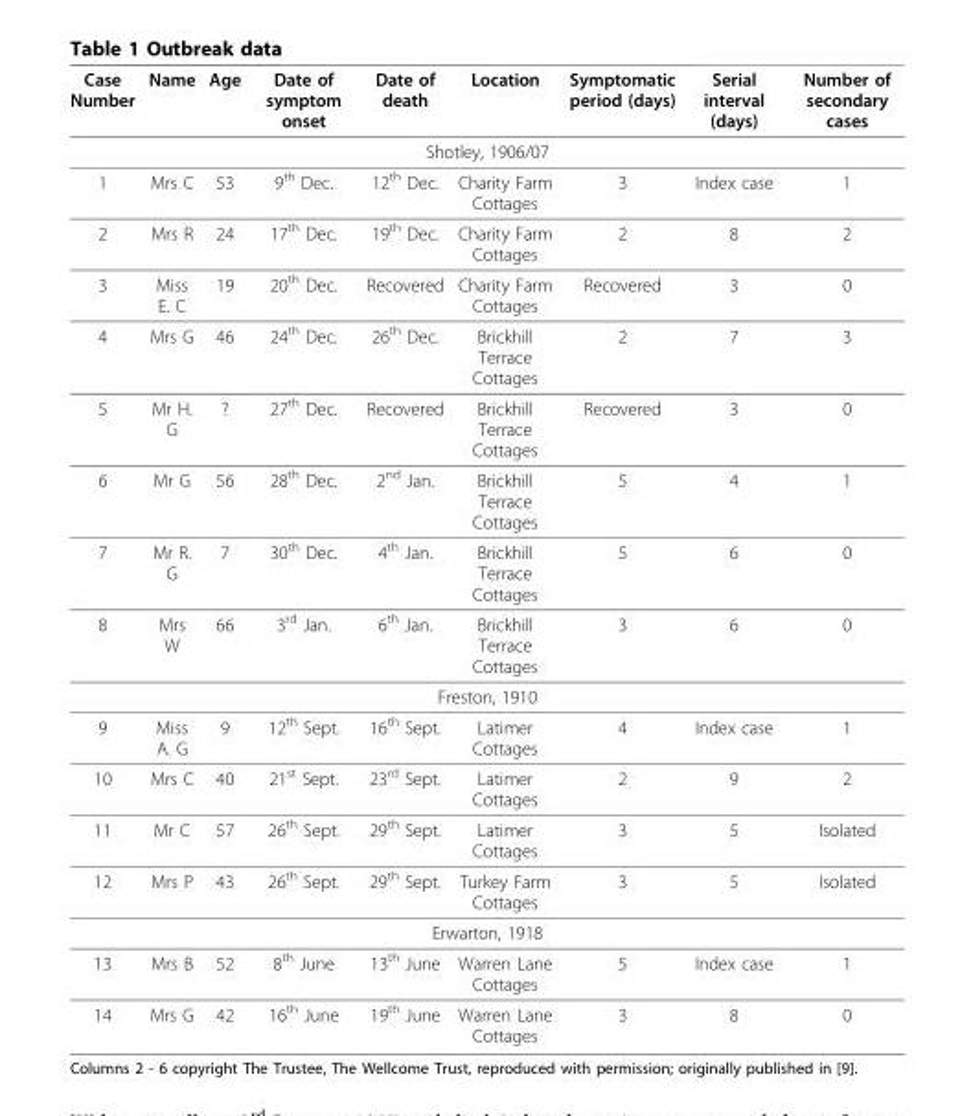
<table><thead><tr><td>Case Number</td><td>Name</td><td>Age</td><td>Date of symptom onset</td><td>Date of death</td><td>Location</td><td>Symptomatic period (days)</td><td>Serial interval (days)</td><td>Number of secondary cases</td></tr></thead><tbody><tr><td colspan="9">Shotley, 1906/07</td></tr><tr><td>1</td><td>Mrs C</td><td>53</td><td>9<sup>th</sup> Dec.</td><td>12<sup>th</sup> Dec.</td><td>Charity Farm Cottages</td><td>3</td><td>Index case</td><td>1</td></tr><tr><td>2</td><td>Mrs R</td><td>24</td><td>17<sup>th</sup> Dec.</td><td>19<sup>th</sup> Dec.</td><td>Charity Farm Cottages</td><td>2</td><td>8</td><td>2</td></tr><tr><td>3</td><td>Miss E. C</td><td>19</td><td>20<sup>th</sup> Dec.</td><td>Recovered</td><td>Charity Farm Cottages</td><td>Recovered</td><td>3</td><td>0</td></tr><tr><td>4</td><td>Mrs G</td><td>46</td><td>24<sup>th</sup> Dec.</td><td>26<sup>th</sup> Dec.</td><td>Brickhill Terrace Cottages</td><td>2</td><td>7</td><td>3</td></tr><tr><td>5</td><td>Mr H. G</td><td>?</td><td>27<sup>th</sup> Dec.</td><td>Recovered</td><td>Brickhill Terrace Cottages</td><td>Recovered</td><td>3</td><td>0</td></tr><tr><td>6</td><td>Mr G</td><td>56</td><td>28<sup>th</sup> Dec.</td><td>2<sup>nd</sup> Jan.</td><td>Brickhill Terrace Cottages</td><td>5</td><td>4</td><td>1</td></tr><tr><td>7</td><td>Mr R. G</td><td>7</td><td>30<sup>th</sup> Dec.</td><td>4<sup>th</sup> Jan.</td><td>Brickhill Terrace Cottages</td><td>5</td><td>6</td><td>0</td></tr><tr><td>8</td><td>Mrs W</td><td>66</td><td>3<sup>rd</sup> Jan.</td><td>6<sup>th</sup> Jan.</td><td>Brickhill Terrace Cottages</td><td>3</td><td>6</td><td>0</td></tr><tr><td colspan="9">Freston, 1910</td></tr><tr><td>9</td><td>Miss A. G</td><td>9</td><td>12<sup>th</sup> Sept.</td><td>16<sup>th</sup> Sept.</td><td>Latimer Cottages</td><td>4</td><td>Index case</td><td>1</td></tr><tr><td>10</td><td>Mrs C</td><td>40</td><td>21<sup>st</sup> Sept.</td><td>23<sup>rd</sup> Sept.</td><td>Latimer Cottages</td><td>2</td><td>9</td><td>2</td></tr><tr><td>11</td><td>Mr C</td><td>57</td><td>26<sup>th</sup> Sept.</td><td>29<sup>th</sup> Sept.</td><td>Latimer Cottages</td><td>3</td><td>5</td><td>Isolated</td></tr><tr><td>12</td><td>Mrs P</td><td>43</td><td>26<sup>th</sup> Sept.</td><td>29<sup>th</sup> Sept.</td><td>Turkey Farm Cottages</td><td>3</td><td>5</td><td>Isolated</td></tr><tr><td colspan="9">Erwarton, 1918</td></tr><tr><td>13</td><td>Mrs B</td><td>52</td><td>8<sup>th</sup> June</td><td>13<sup>th</sup> June</td><td>Warren Lane Cottages</td><td>5</td><td>Index case</td><td>1</td></tr><tr><td>14</td><td>Mrs G</td><td>42</td><td>16<sup>th</sup> June</td><td>19<sup>th</sup> June</td><td>Warren Lane Cottages</td><td>3</td><td>8</td><td>0</td></tr></tbody></table>